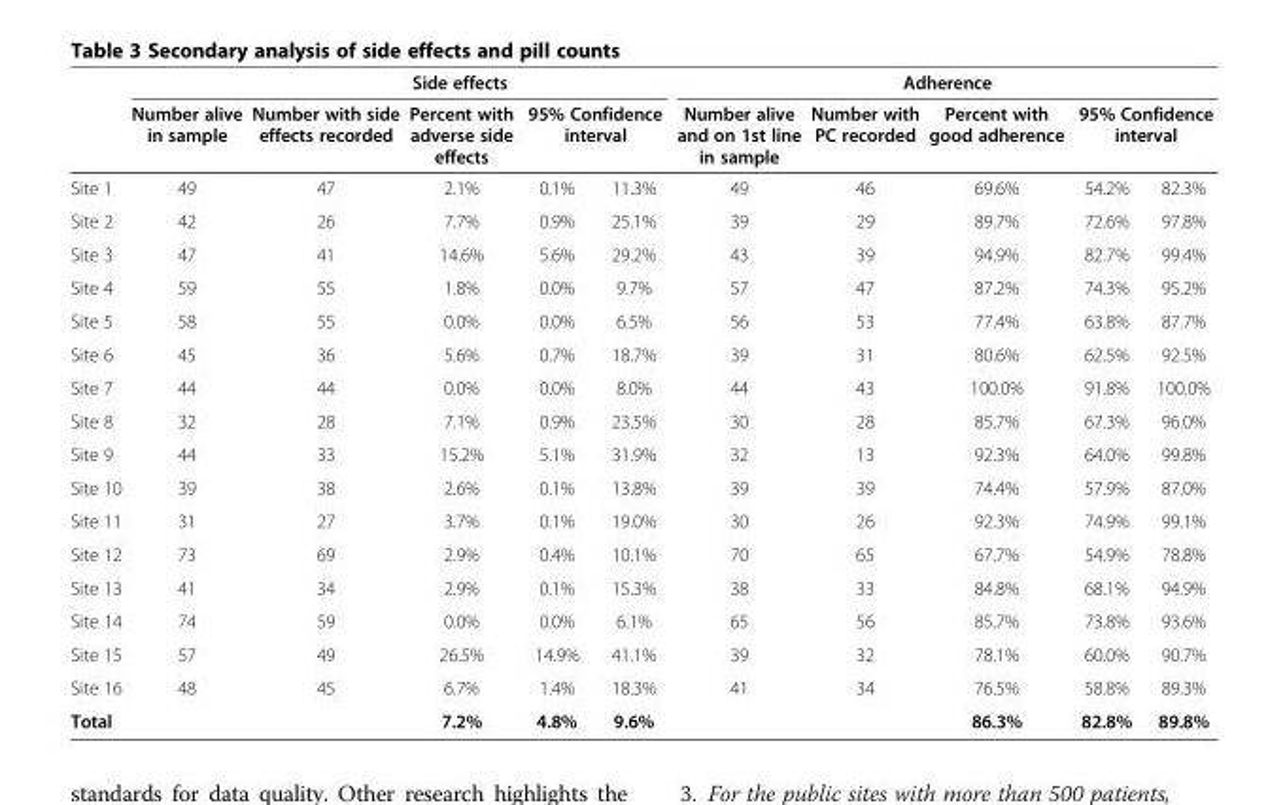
<table><thead><tr><td rowspan="3">Site 1</td><td rowspan="3">Number alive in sample 49</td><td colspan="4">Side effects</td><td colspan="5">Adherence</td></tr><tr><td rowspan="2">Number with side effects recorded 47</td><td rowspan="2">Percent with adverse side effects 2.1%</td><td colspan="2">95% Confidence interval</td><td rowspan="2">Number alive and on 1st line in sample 49</td><td rowspan="2">Number with PC recorded 46</td><td rowspan="2">Percent with good adherence 69.6%</td><td colspan="2">95% Confidence interval</td></tr><tr><td>0.1%</td><td>11.3%</td><td>54.2%</td><td>82.3%</td></tr></thead><tbody><tr><td>Site 2</td><td>42</td><td>26</td><td>7.7%</td><td>0.9%</td><td>25.1%</td><td>39</td><td>29</td><td>89.7%</td><td>72.6%</td><td>97.8%</td></tr><tr><td>Site 3</td><td>47</td><td>41</td><td>14.6%</td><td>5.6%</td><td>29.2%</td><td>43</td><td>39</td><td>94.9%</td><td>82.7%</td><td>99.4%</td></tr><tr><td>Site 4</td><td>59</td><td>55</td><td>1.8%</td><td>0.0%</td><td>9.7%</td><td>57</td><td>47</td><td>87.2%</td><td>74.3%</td><td>95.2%</td></tr><tr><td>Site 5</td><td>58</td><td>55</td><td>0.0%</td><td>0.0%</td><td>6.5%</td><td>56</td><td>53</td><td>77.4%</td><td>63.8%</td><td>87.7%</td></tr><tr><td>Site 6</td><td>45</td><td>36</td><td>5.6%</td><td>0.7%</td><td>18.7%</td><td>39</td><td>31</td><td>80.6%</td><td>62.5%</td><td>92.5%</td></tr><tr><td>Site 7</td><td>44</td><td>44</td><td>0.0%</td><td>0.0%</td><td>8.0%</td><td>44</td><td>43</td><td>100.0%</td><td>91.8%</td><td>100.0%</td></tr><tr><td>Site 8</td><td>32</td><td>28</td><td>7.1%</td><td>0.9%</td><td>23.5%</td><td>30</td><td>28</td><td>85.7%</td><td>67.3%</td><td>96.0%</td></tr><tr><td>Site 9</td><td>44</td><td>33</td><td>15.2%</td><td>5.1%</td><td>31.9%</td><td>32</td><td>13</td><td>92.3%</td><td>64.0%</td><td>99.8%</td></tr><tr><td>Site 10</td><td>39</td><td>38</td><td>2.6%</td><td>0.1%</td><td>13.8%</td><td>39</td><td>39</td><td>74.4%</td><td>57.9%</td><td>87.0%</td></tr><tr><td>Site 11</td><td>31</td><td>27</td><td>3.7%</td><td>0.1%</td><td>19.0%</td><td>30</td><td>26</td><td>92.3%</td><td>74.9%</td><td>99.1%</td></tr><tr><td>Site 12</td><td>73</td><td>69</td><td>2.9%</td><td>0.4%</td><td>10.1%</td><td>70</td><td>65</td><td>67.7%</td><td>54.9%</td><td>78.8%</td></tr><tr><td>Site 13</td><td>41</td><td>34</td><td>2.9%</td><td>0.1%</td><td>15.3%</td><td>38</td><td>33</td><td>84.8%</td><td>68.1%</td><td>94.9%</td></tr><tr><td>Site 14</td><td>74</td><td>59</td><td>0.0%</td><td>0.0%</td><td>6.1%</td><td>65</td><td>56</td><td>85.7%</td><td>73.8%</td><td>93.6%</td></tr><tr><td>Site 15</td><td>57</td><td>49</td><td>26.5%</td><td>14.9%</td><td>41.1%</td><td>39</td><td>32</td><td>78.1%</td><td>60.0%</td><td>90.7%</td></tr><tr><td>Site 16</td><td>48</td><td>45</td><td>6.7%</td><td>1.4%</td><td>18.3%</td><td>41</td><td>34</td><td>76.5%</td><td>58.8%</td><td>89.3%</td></tr><tr><td>Total</td><td></td><td></td><td>7.2%</td><td>4.8%</td><td>9.6%</td><td></td><td></td><td>86.3%</td><td>82.8%</td><td>89.8%</td></tr></tbody></table>